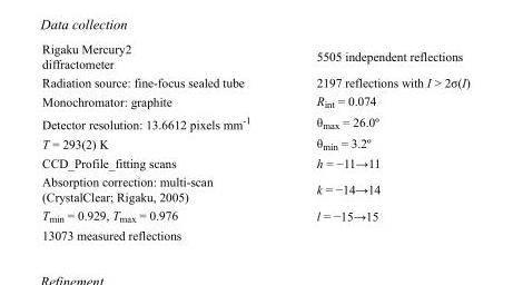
<table><tbody><tr><td>Rigaku Mercury2 diffractometer</td><td>5505 independent reflections</td></tr><tr><td>Radiation source: fine-focus sealed tube</td><td>2197 reflections with I &gt; 2σ(I)</td></tr><tr><td>Monochromator: graphite</td><td>R<sub>int</sub> = 0.074</td></tr><tr><td>Detector resolution: 13.6612 pixels mm<sup>-1</sup></td><td>θ<sub>max</sub> = 26.0º</td></tr><tr><td>T = 293(2) K</td><td>θ<sub>min</sub> = 3.2º</td></tr><tr><td>CCD_Profile_fitting scans</td><td>h = −11→11</td></tr><tr><td>Absorption correction: multi-scan (CrystalClear; Rigaku, 2005)</td><td>k = −14→14</td></tr><tr><td>T<sub>min</sub> = 0.929, T<sub>max</sub> = 0.976</td><td>l = −15→15</td></tr><tr><td>13073 measured reflections</td><td></td></tr></tbody></table>